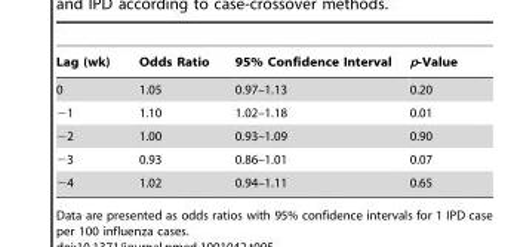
<table><thead><tr><td>Lag (wk)</td><td>Odds Ratio</td><td>95% Confidence Interval</td><td>p-Value</td></tr></thead><tbody><tr><td>0</td><td>1.05</td><td>0.97–1.13</td><td>0.20</td></tr><tr><td>−1</td><td>1.10</td><td>1.02–1.18</td><td>0.01</td></tr><tr><td>−2</td><td>1.00</td><td>0.93–1.09</td><td>0.90</td></tr><tr><td>−3</td><td>0.93</td><td>0.86–1.01</td><td>0.07</td></tr><tr><td>−4</td><td>1.02</td><td>0.94–1.11</td><td>0.65</td></tr></tbody></table>